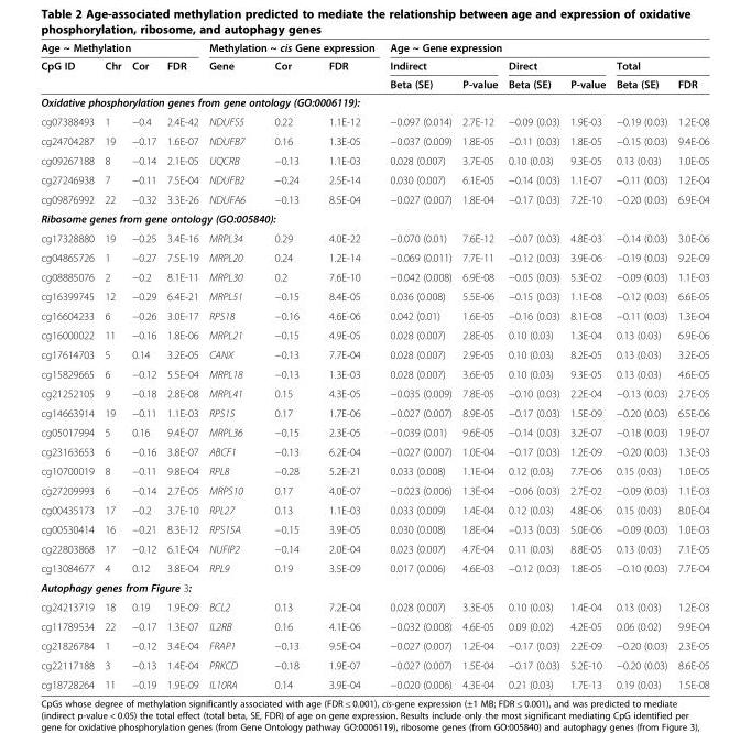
<table><thead><tr><td colspan="4">Age ~ Methylation</td><td colspan="3">Methylation ~ cis Gene expression</td><td colspan="6">Age ~ Gene expression</td></tr><tr><td rowspan="2">CpG ID</td><td rowspan="2">Chr</td><td rowspan="2">Cor</td><td rowspan="2">FDR</td><td rowspan="2">Gene</td><td rowspan="2">Cor</td><td rowspan="2">FDR</td><td colspan="2">Indirect</td><td colspan="2">Direct</td><td colspan="2">Total</td></tr><tr><td>Beta (SE)</td><td>P-value</td><td>Beta (SE)</td><td>P-value</td><td>Beta (SE)</td><td>FDR</td></tr></thead><tbody><tr><td colspan="13">Oxidative phosphorylation genes from gene ontology (GO:0006119):</td></tr><tr><td>cg07388493</td><td>1</td><td>−0.4</td><td>2.4E-42</td><td>NDUFS5</td><td>0.22</td><td>1.1E-12</td><td>−0.097 (0.014)</td><td>2.7E-12</td><td>−0.09 (0.03)</td><td>1.9E-03</td><td>−0.19 (0.03)</td><td>1.2E-08</td></tr><tr><td>cg24704287</td><td>19</td><td>−0.17</td><td>1.6E-07</td><td>NDUFB7</td><td>0.16</td><td>1.3E-05</td><td>−0.037 (0.009)</td><td>1.8E-05</td><td>−0.11 (0.03)</td><td>1.8E-05</td><td>−0.15 (0.03)</td><td>9.4E-06</td></tr><tr><td>cg09267188</td><td>8</td><td>−0.14</td><td>2.1E-05</td><td>UQCRB</td><td>−0.13</td><td>1.1E-03</td><td>0.028 (0.007)</td><td>3.7E-05</td><td>0.10 (0.03)</td><td>9.3E-05</td><td>0.13 (0.03)</td><td>1.0E-05</td></tr><tr><td>cg27246938</td><td>7</td><td>−0.11</td><td>7.5E-04</td><td>NDUFB2</td><td>−0.24</td><td>2.5E-14</td><td>0.030 (0.007)</td><td>6.1E-05</td><td>−0.14 (0.03)</td><td>1.1E-07</td><td>−0.11 (0.03)</td><td>1.2E-04</td></tr><tr><td>cg09876992</td><td>22</td><td>−0.32</td><td>3.3E-26</td><td>NDUFA6</td><td>−0.13</td><td>8.5E-04</td><td>−0.027 (0.007)</td><td>1.8E-04</td><td>−0.17 (0.03)</td><td>7.2E-10</td><td>−0.20 (0.03)</td><td>6.9E-04</td></tr><tr><td colspan="13">Ribosome genes from gene ontology (GO:005840):</td></tr><tr><td>cg17328880</td><td>19</td><td>−0.25</td><td>3.4E-16</td><td>MRPL34</td><td>0.29</td><td>4.0E-22</td><td>−0.070 (0.01)</td><td>7.6E-12</td><td>−0.07 (0.03)</td><td>4.8E-03</td><td>−0.14 (0.03)</td><td>3.0E-06</td></tr><tr><td>cg04865726</td><td>1</td><td>−0.27</td><td>7.5E-19</td><td>MRPL20</td><td>0.24</td><td>1.2E-14</td><td>−0.069 (0.011)</td><td>7.7E-11</td><td>−0.12 (0.03)</td><td>3.9E-06</td><td>−0.19 (0.03)</td><td>9.2E-09</td></tr><tr><td>cg08885076</td><td>2</td><td>−0.2</td><td>8.1E-11</td><td>MRPL30</td><td>0.2</td><td>7.6E-10</td><td>−0.042 (0.008)</td><td>6.9E-08</td><td>−0.05 (0.03)</td><td>5.3E-02</td><td>−0.09 (0.03)</td><td>1.1E-03</td></tr><tr><td>cg16399745</td><td>12</td><td>−0.29</td><td>6.4E-21</td><td>MRPL51</td><td>−0.15</td><td>8.4E-05</td><td>0.036 (0.008)</td><td>5.5E-06</td><td>−0.15 (0.03)</td><td>1.1E-08</td><td>−0.12 (0.03)</td><td>6.6E-05</td></tr><tr><td>cg16604233</td><td>6</td><td>−0.26</td><td>3.0E-17</td><td>RPS18</td><td>−0.16</td><td>4.6E-06</td><td>0.042 (0.01)</td><td>1.6E-05</td><td>−0.16 (0.03)</td><td>8.1E-08</td><td>−0.11 (0.03)</td><td>1.3E-04</td></tr><tr><td>cg16000022</td><td>11</td><td>−0.16</td><td>1.8E-06</td><td>MRPL21</td><td>−0.15</td><td>4.9E-05</td><td>0.028 (0.007)</td><td>2.8E-05</td><td>0.10 (0.03)</td><td>1.3E-04</td><td>0.13 (0.03)</td><td>6.9E-06</td></tr><tr><td>cg17614703</td><td>5</td><td>0.14</td><td>3.2E-05</td><td>CANX</td><td>−0.13</td><td>7.7E-04</td><td>0.028 (0.007)</td><td>2.9E-05</td><td>0.10 (0.03)</td><td>8.2E-05</td><td>0.13 (0.03)</td><td>3.2E-05</td></tr><tr><td>cg15829665</td><td>6</td><td>−0.12</td><td>5.5E-04</td><td>MRPL18</td><td>−0.13</td><td>1.3E-03</td><td>0.028 (0.007)</td><td>3.6E-05</td><td>0.10 (0.03)</td><td>9.3E-05</td><td>0.13 (0.03)</td><td>4.6E-05</td></tr><tr><td>cg21252105</td><td>9</td><td>−0.18</td><td>2.8E-08</td><td>MRPL41</td><td>0.15</td><td>4.3E-05</td><td>−0.035 (0.009)</td><td>7.8E-05</td><td>−0.10 (0.03)</td><td>2.2E-04</td><td>−0.13 (0.03)</td><td>2.7E-05</td></tr><tr><td>cg14663914</td><td>19</td><td>−0.11</td><td>1.1E-03</td><td>RPS15</td><td>0.17</td><td>1.7E-06</td><td>−0.027 (0.007)</td><td>8.9E-05</td><td>−0.17 (0.03)</td><td>1.5E-09</td><td>−0.20 (0.03)</td><td>6.5E-06</td></tr><tr><td>cg05017994</td><td>5</td><td>0.16</td><td>9.4E-07</td><td>MRPL36</td><td>−0.15</td><td>2.3E-05</td><td>−0.039 (0.01)</td><td>9.6E-05</td><td>−0.14 (0.03)</td><td>3.2E-07</td><td>−0.18 (0.03)</td><td>1.9E-07</td></tr><tr><td>cg23163653</td><td>6</td><td>−0.16</td><td>3.8E-07</td><td>ABCF1</td><td>−0.13</td><td>6.2E-04</td><td>−0.027 (0.007)</td><td>1.0E-04</td><td>−0.17 (0.03)</td><td>1.2E-09</td><td>−0.20 (0.03)</td><td>1.3E-03</td></tr><tr><td>cg10700019</td><td>8</td><td>−0.11</td><td>9.8E-04</td><td>RPL8</td><td>−0.28</td><td>5.2E-21</td><td>0.033 (0.008)</td><td>1.1E-04</td><td>0.12 (0.03)</td><td>7.7E-06</td><td>0.15 (0.03)</td><td>1.0E-05</td></tr><tr><td>cg27209993</td><td>6</td><td>−0.14</td><td>2.7E-05</td><td>MRPS10</td><td>0.17</td><td>4.0E-07</td><td>−0.023 (0.006)</td><td>1.3E-04</td><td>−0.06 (0.03)</td><td>2.7E-02</td><td>−0.09 (0.03)</td><td>1.1E-03</td></tr><tr><td>cg00435173</td><td>17</td><td>−0.2</td><td>3.7E-10</td><td>RPL27</td><td>0.13</td><td>1.1E-03</td><td>0.033 (0.009)</td><td>1.4E-04</td><td>0.12 (0.03)</td><td>4.8E-06</td><td>0.15 (0.03)</td><td>8.0E-04</td></tr><tr><td>cg00530414</td><td>16</td><td>−0.21</td><td>8.3E-12</td><td>RPS15A</td><td>−0.15</td><td>3.9E-05</td><td>0.030 (0.008)</td><td>1.8E-04</td><td>−0.13 (0.03)</td><td>5.0E-06</td><td>−0.09 (0.03)</td><td>1.0E-03</td></tr><tr><td>cg22803868</td><td>17</td><td>−0.12</td><td>6.1E-04</td><td>NUFIP2</td><td>−0.14</td><td>2.0E-04</td><td>0.023 (0.007)</td><td>4.7E-04</td><td>0.11 (0.03)</td><td>8.8E-05</td><td>0.13 (0.03)</td><td>7.1E-05</td></tr><tr><td>cg13084677</td><td>4</td><td>0.12</td><td>3.8E-04</td><td>RPL9</td><td>0.19</td><td>3.5E-09</td><td>0.017 (0.006)</td><td>4.6E-03</td><td>−0.12 (0.03)</td><td>1.8E-05</td><td>−0.10 (0.03)</td><td>7.7E-04</td></tr><tr><td colspan="13">Autophagy genes from Figure 3:</td></tr><tr><td>cg24213719</td><td>18</td><td>0.19</td><td>1.9E-09</td><td>BCL2</td><td>0.13</td><td>7.2E-04</td><td>0.028 (0.007)</td><td>3.3E-05</td><td>0.10 (0.03)</td><td>1.4E-04</td><td>0.13 (0.03)</td><td>1.2E-03</td></tr><tr><td>cg11789534</td><td>22</td><td>−0.17</td><td>1.3E-07</td><td>IL2RB</td><td>0.16</td><td>4.1E-06</td><td>−0.032 (0.008)</td><td>4.6E-05</td><td>0.09 (0.02)</td><td>4.2E-05</td><td>0.06 (0.02)</td><td>9.9E-04</td></tr><tr><td>cg21826784</td><td>1</td><td>−0.12</td><td>3.4E-04</td><td>FRAP1</td><td>−0.13</td><td>9.5E-04</td><td>−0.027 (0.007)</td><td>1.2E-04</td><td>−0.17 (0.03)</td><td>2.2E-09</td><td>−0.20 (0.03)</td><td>2.3E-05</td></tr><tr><td>cg22117188</td><td>3</td><td>−0.13</td><td>1.4E-04</td><td>PRKCD</td><td>−0.18</td><td>1.9E-07</td><td>−0.027 (0.007)</td><td>1.5E-04</td><td>−0.17 (0.03)</td><td>5.2E-10</td><td>−0.20 (0.03)</td><td>8.6E-05</td></tr><tr><td>cg18728264</td><td>11</td><td>−0.19</td><td>1.9E-09</td><td>IL10RA</td><td>0.14</td><td>3.9E-04</td><td>−0.020 (0.006)</td><td>4.3E-04</td><td>0.21 (0.03)</td><td>1.7E-13</td><td>0.19 (0.03)</td><td>1.5E-08</td></tr></tbody></table>